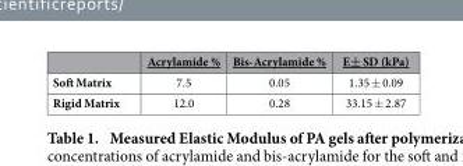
<table><thead><tr><td></td><td>Acrylamide %</td><td>Bis-Acrylamide %</td><td>E± SD (kPa)</td></tr></thead><tbody><tr><td>Soft Matrix</td><td>7.5</td><td>0.05</td><td>1.35 ± 0.09</td></tr><tr><td>Rigid Matrix</td><td>12.0</td><td>0.28</td><td>33.15 ± 2.87</td></tr></tbody></table>